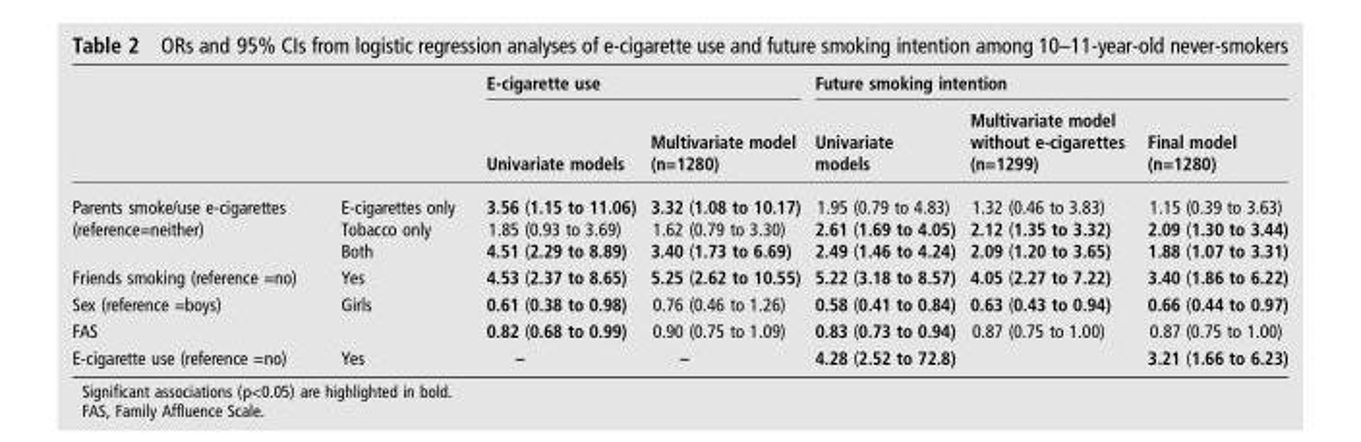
<table><thead><tr><td rowspan="2"></td><td rowspan="2"></td><td colspan="2">E-cigarette use</td><td colspan="3">Future smoking intention</td></tr><tr><td>Univariate models</td><td>Multivariate model (n=1280)</td><td>Univariate models</td><td>Multivariate model without e-cigarettes (n=1299)</td><td>Final model (n=1280)</td></tr></thead><tbody><tr><td rowspan="3">Parents smoke/use e-cigarettes (reference=neither)</td><td>E-cigarettes only</td><td>3.56 (1.15 to 11.06)</td><td>3.32 (1.08 to 10.17)</td><td>1.95 (0.79 to 4.83)</td><td>1.32 (0.46 to 3.83)</td><td>1.15 (0.39 to 3.63)</td></tr><tr><td>Tobacco only</td><td>1.85 (0.93 to 3.69)</td><td>1.62 (0.79 to 3.30)</td><td>2.61 (1.69 to 4.05)</td><td>2.12 (1.35 to 3.32)</td><td>2.09 (1.30 to 3.44)</td></tr><tr><td>Both</td><td>4.51 (2.29 to 8.89)</td><td>3.40 (1.73 to 6.69)</td><td>2.49 (1.46 to 4.24)</td><td>2.09 (1.20 to 3.65)</td><td>1.88 (1.07 to 3.31)</td></tr><tr><td>Friends smoking (reference =no)</td><td>Yes</td><td>4.53 (2.37 to 8.65)</td><td>5.25 (2.62 to 10.55)</td><td>5.22 (3.18 to 8.57)</td><td>4.05 (2.27 to 7.22)</td><td>3.40 (1.86 to 6.22)</td></tr><tr><td>Sex (reference =boys)</td><td>Girls</td><td>0.61 (0.38 to 0.98)</td><td>0.76 (0.46 to 1.26)</td><td>0.58 (0.41 to 0.84)</td><td>0.63 (0.43 to 0.94)</td><td>0.66 (0.44 to 0.97)</td></tr><tr><td>FAS</td><td></td><td>0.82 (0.68 to 0.99)</td><td>0.90 (0.75 to 1.09)</td><td>0.83 (0.73 to 0.94)</td><td>0.87 (0.75 to 1.00)</td><td>0.87 (0.75 to 1.00)</td></tr><tr><td>E-cigarette use (reference =no)</td><td>Yes</td><td>–</td><td>–</td><td>4.28 (2.52 to 72.8)</td><td></td><td>3.21 (1.66 to 6.23)</td></tr></tbody></table>